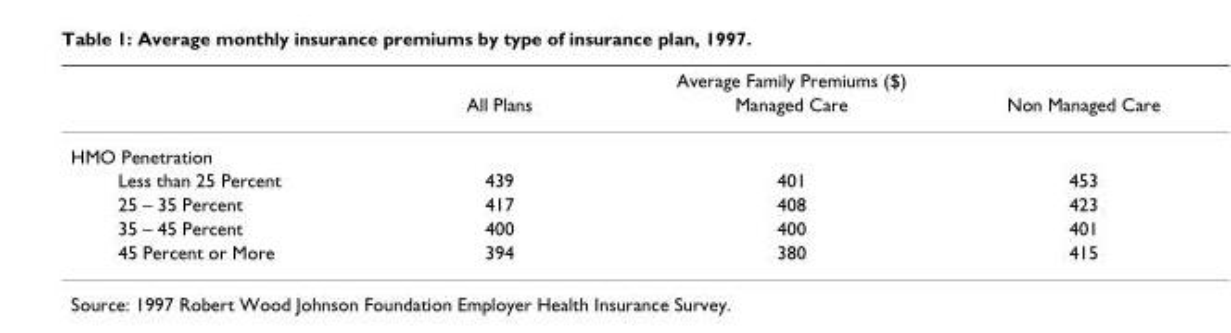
<table><thead><tr><td rowspan="2"></td><td colspan="3">Average Family Premiums ($)</td></tr><tr><td>All Plans</td><td>Managed Care</td><td>Non Managed Care</td></tr></thead><tbody><tr><td colspan="4">HMO Penetration</td></tr><tr><td>Less than 25 Percent</td><td>439</td><td>401</td><td>453</td></tr><tr><td>25 – 35 Percent</td><td>417</td><td>408</td><td>423</td></tr><tr><td>35 – 45 Percent</td><td>400</td><td>400</td><td>401</td></tr><tr><td>45 Percent or More</td><td>394</td><td>380</td><td>415</td></tr></tbody></table>